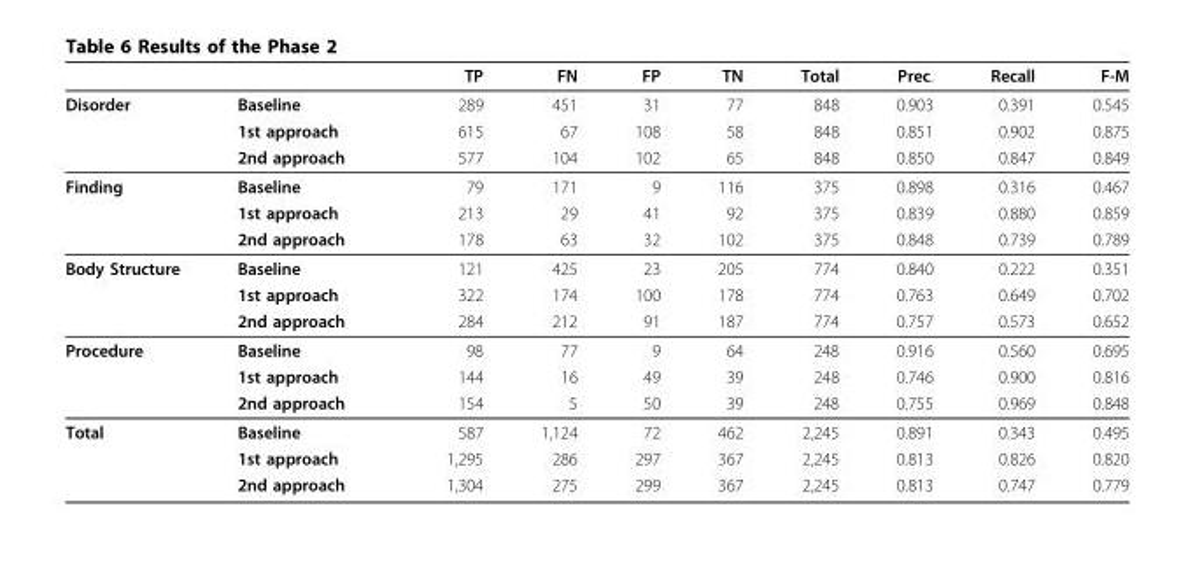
<table><thead><tr><td></td><td></td><td>TP</td><td>FN</td><td>FP</td><td>TN</td><td>Total</td><td>Prec.</td><td>Recall</td><td>F-M</td></tr></thead><tbody><tr><td rowspan="3">Disorder</td><td>Baseline</td><td>289</td><td>451</td><td>31</td><td>77</td><td>848</td><td>0.903</td><td>0.391</td><td>0.545</td></tr><tr><td>1st approach</td><td>615</td><td>67</td><td>108</td><td>58</td><td>848</td><td>0.851</td><td>0.902</td><td>0.875</td></tr><tr><td>2nd approach</td><td>577</td><td>104</td><td>102</td><td>65</td><td>848</td><td>0.850</td><td>0.847</td><td>0.849</td></tr><tr><td rowspan="3">Finding</td><td>Baseline</td><td>79</td><td>171</td><td>9</td><td>116</td><td>375</td><td>0.898</td><td>0.316</td><td>0.467</td></tr><tr><td>1st approach</td><td>213</td><td>29</td><td>41</td><td>92</td><td>375</td><td>0.839</td><td>0.880</td><td>0.859</td></tr><tr><td>2nd approach</td><td>178</td><td>63</td><td>32</td><td>102</td><td>375</td><td>0.848</td><td>0.739</td><td>0.789</td></tr><tr><td rowspan="3">Body Structure</td><td>Baseline</td><td>121</td><td>425</td><td>23</td><td>205</td><td>774</td><td>0.840</td><td>0.222</td><td>0.351</td></tr><tr><td>1st approach</td><td>322</td><td>174</td><td>100</td><td>178</td><td>774</td><td>0.763</td><td>0.649</td><td>0.702</td></tr><tr><td>2nd approach</td><td>284</td><td>212</td><td>91</td><td>187</td><td>774</td><td>0.757</td><td>0.573</td><td>0.652</td></tr><tr><td rowspan="3">Procedure</td><td>Baseline</td><td>98</td><td>77</td><td>9</td><td>64</td><td>248</td><td>0.916</td><td>0.560</td><td>0.695</td></tr><tr><td>1st approach</td><td>144</td><td>16</td><td>49</td><td>39</td><td>248</td><td>0.746</td><td>0.900</td><td>0.816</td></tr><tr><td>2nd approach</td><td>154</td><td>5</td><td>50</td><td>39</td><td>248</td><td>0.755</td><td>0.969</td><td>0.848</td></tr><tr><td rowspan="3">Total</td><td>Baseline</td><td>587</td><td>1,124</td><td>72</td><td>462</td><td>2,245</td><td>0.891</td><td>0.343</td><td>0.495</td></tr><tr><td>1st approach</td><td>1,295</td><td>286</td><td>297</td><td>367</td><td>2,245</td><td>0.813</td><td>0.826</td><td>0.820</td></tr><tr><td>2nd approach</td><td>1,304</td><td>275</td><td>299</td><td>367</td><td>2,245</td><td>0.813</td><td>0.747</td><td>0.779</td></tr></tbody></table>